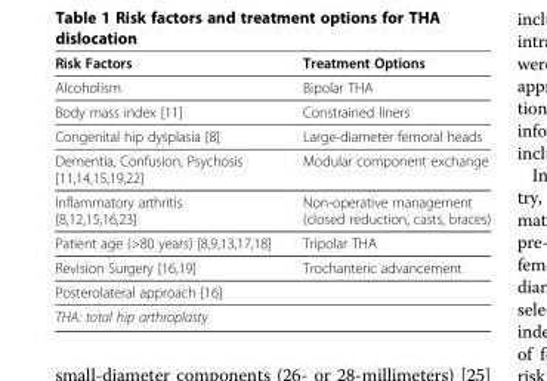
<table><thead><tr><td>Risk Factors</td><td>Treatment Options</td></tr></thead><tbody><tr><td>Alcoholism</td><td>Bipolar THA</td></tr><tr><td>Body mass index [11]</td><td>Constrained liners</td></tr><tr><td>Congenital hip dysplasia [8]</td><td>Large-diameter femoral heads</td></tr><tr><td>Dementia, Confusion, Psychosis [11,14,15,19,22]</td><td>Modular component exchange</td></tr><tr><td>Inflammatory arthritis [8,12,15,16,23]</td><td>Non-operative management (closed reduction, casts, braces)</td></tr><tr><td>Patient age (&gt;80 years) [8,9,13,17,18]</td><td>Tripolar THA</td></tr><tr><td>Revision Surgery [16,19]</td><td>Trochanteric advancement</td></tr><tr><td colspan="2">Posterolateral approach [16]</td></tr><tr><td>THA: total hip arthroplasty</td><td></td></tr></tbody></table>